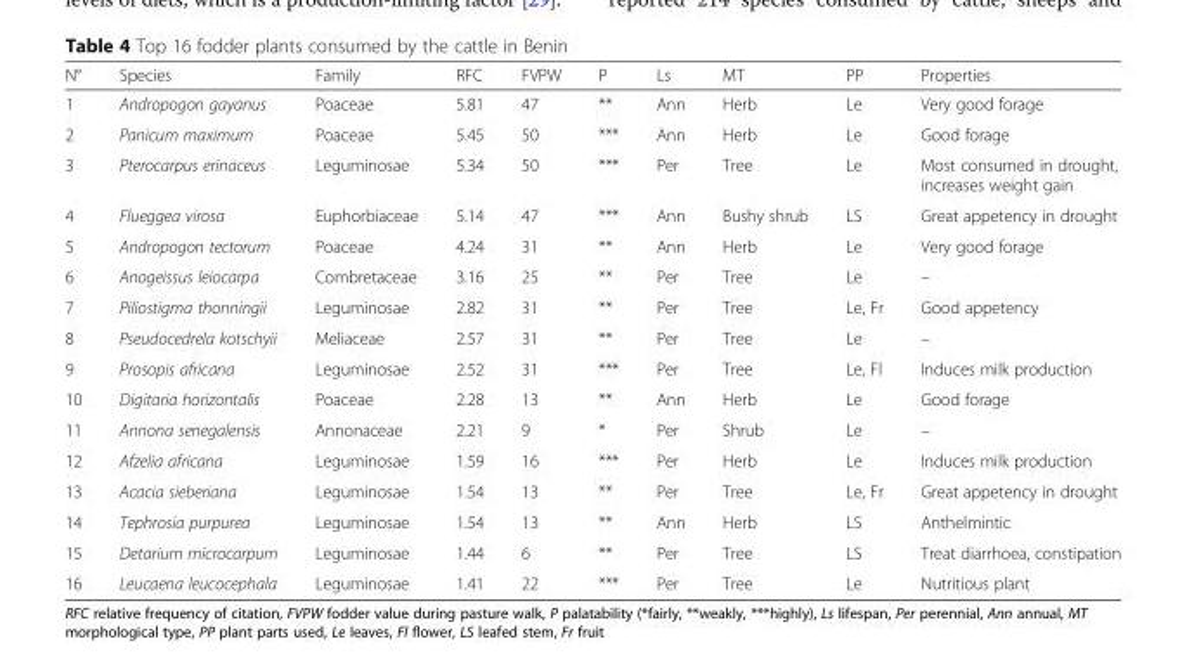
<table><thead><tr><td>N°</td><td>Species</td><td>Family</td><td>RFC</td><td>FVPW</td><td>P</td><td>Ls</td><td>MT</td><td>PP</td><td>Properties</td></tr></thead><tbody><tr><td>1</td><td>Andropogon gayanus</td><td>Poaceae</td><td>5.81</td><td>47</td><td>**</td><td>Ann</td><td>Herb</td><td>Le</td><td>Very good forage</td></tr><tr><td>2</td><td>Panicum maximum</td><td>Poaceae</td><td>5.45</td><td>50</td><td>***</td><td>Ann</td><td>Herb</td><td>Le</td><td>Good forage</td></tr><tr><td>3</td><td>Pterocarpus erinaceus</td><td>Leguminosae</td><td>5.34</td><td>50</td><td>***</td><td>Per</td><td>Tree</td><td>Le</td><td>Most consumed in drought, increases weight gain</td></tr><tr><td>4</td><td>Flueggea virosa</td><td>Euphorbiaceae</td><td>5.14</td><td>47</td><td>***</td><td>Ann</td><td>Bushy shrub</td><td>LS</td><td>Great appetency in drought</td></tr><tr><td>5</td><td>Andropogon tectorum</td><td>Poaceae</td><td>4.24</td><td>31</td><td>**</td><td>Ann</td><td>Herb</td><td>Le</td><td>Very good forage</td></tr><tr><td>6</td><td>Anogeissus leiocarpa</td><td>Combretaceae</td><td>3.16</td><td>25</td><td>**</td><td>Per</td><td>Tree</td><td>Le</td><td>–</td></tr><tr><td>7</td><td>Piliostigma thonningii</td><td>Leguminosae</td><td>2.82</td><td>31</td><td>**</td><td>Per</td><td>Tree</td><td>Le, Fr</td><td>Good appetency</td></tr><tr><td>8</td><td>Pseudocedrela kotschyii</td><td>Meliaceae</td><td>2.57</td><td>31</td><td>**</td><td>Per</td><td>Tree</td><td>Le</td><td>–</td></tr><tr><td>9</td><td>Prosopis africana</td><td>Leguminosae</td><td>2.52</td><td>31</td><td>***</td><td>Per</td><td>Tree</td><td>Le, Fl</td><td>Induces milk production</td></tr><tr><td>10</td><td>Digitaria horizontalis</td><td>Poaceae</td><td>2.28</td><td>13</td><td>**</td><td>Ann</td><td>Herb</td><td>Le</td><td>Good forage</td></tr><tr><td>11</td><td>Annona senegalensis</td><td>Annonaceae</td><td>2.21</td><td>9</td><td>*</td><td>Per</td><td>Shrub</td><td>Le</td><td>–</td></tr><tr><td>12</td><td>Afzelia africana</td><td>Leguminosae</td><td>1.59</td><td>16</td><td>***</td><td>Per</td><td>Herb</td><td>Le</td><td>Induces milk production</td></tr><tr><td>13</td><td>Acacia sieberiana</td><td>Leguminosae</td><td>1.54</td><td>13</td><td>**</td><td>Per</td><td>Tree</td><td>Le, Fr</td><td>Great appetency in drought</td></tr><tr><td>14</td><td>Tephrosia purpurea</td><td>Leguminosae</td><td>1.54</td><td>13</td><td>**</td><td>Ann</td><td>Herb</td><td>LS</td><td>Anthelmintic</td></tr><tr><td>15</td><td>Detarium microcarpum</td><td>Leguminosae</td><td>1.44</td><td>6</td><td>**</td><td>Per</td><td>Tree</td><td>LS</td><td>Treat diarrhoea, constipation</td></tr><tr><td>16</td><td>Leucaena leucocephala</td><td>Leguminosae</td><td>1.41</td><td>22</td><td>***</td><td>Per</td><td>Tree</td><td>Le</td><td>Nutritious plant</td></tr></tbody></table>